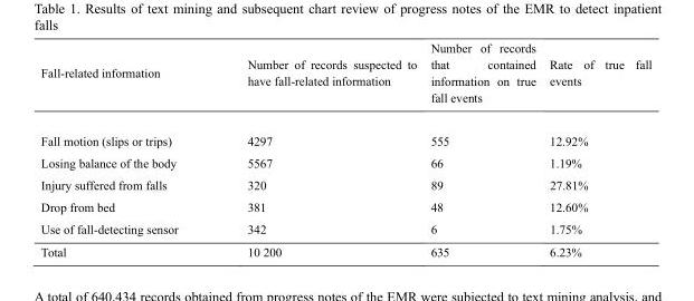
<table><thead><tr><td>Fall-related information</td><td>Number of records suspected to have fall-related information</td><td>Number of records that contained information on true fall events</td><td>Rate of true fall events</td></tr></thead><tbody><tr><td>Fall motion (slips or trips)</td><td>4297</td><td>555</td><td>12.92%</td></tr><tr><td>Losing balance of the body</td><td>5567</td><td>66</td><td>1.19%</td></tr><tr><td>Injury suffered from falls</td><td>320</td><td>89</td><td>27.81%</td></tr><tr><td>Drop from bed</td><td>381</td><td>48</td><td>12.60%</td></tr><tr><td>Use of fall-detecting sensor</td><td>342</td><td>6</td><td>1.75%</td></tr><tr><td>Total</td><td>10 200</td><td>635</td><td>6.23%</td></tr></tbody></table>